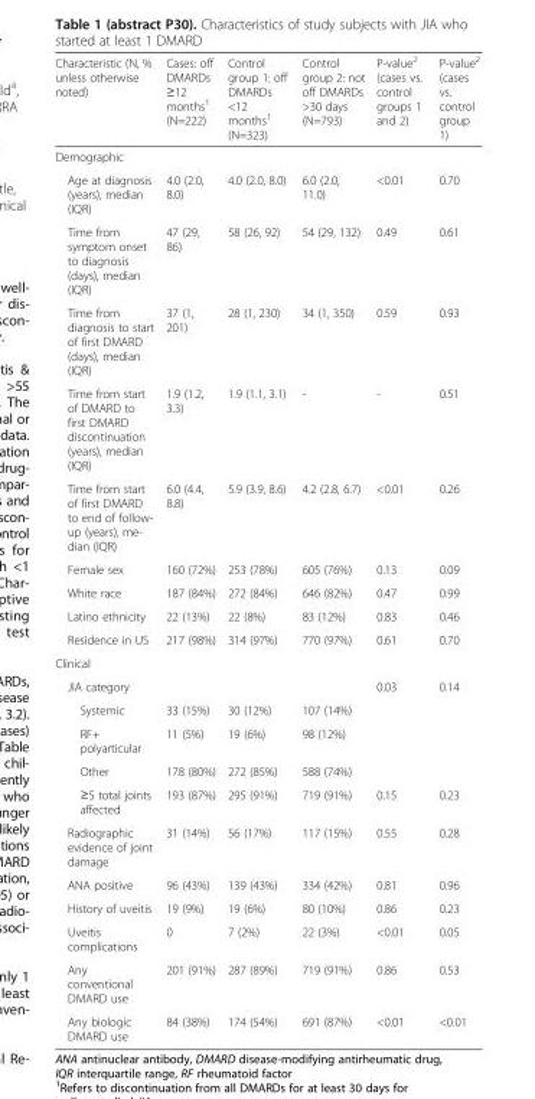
<table><thead><tr><td>Characteristic (N, % unless otherwise noted)</td><td>Cases: off DMARDs ≥12 months<sup>1</sup> (N=222)</td><td>Control group 1: off DMARDs &lt;12 months<sup>1</sup> (N=323)</td><td>Control group 2: not off DMARDs &gt;30 days (N=793)</td><td>P-value<sup>2</sup> (cases vs. control groups 1 and 2)</td><td>P-value<sup>2</sup> (cases vs. control group 1)</td></tr></thead><tbody><tr><td colspan="6">Demographic</td></tr><tr><td>Age at diagnosis (years), median (IQR)</td><td>4.0 (2.0, 8.0)</td><td>4.0 (2.0, 8.0)</td><td>6.0 (2.0, 11.0)</td><td>&lt;0.01</td><td>0.70</td></tr><tr><td>Time from symptom onset to diagnosis (days), median (IQR)</td><td>47 (29, 86)</td><td>58 (26, 92)</td><td>54 (29, 132)</td><td>0.49</td><td>0.61</td></tr><tr><td>Time from diagnosis to start of first DMARD (days), median (IQR)</td><td>37 (1, 201)</td><td>28 (1, 230)</td><td>34 (1, 350)</td><td>0.59</td><td>0.93</td></tr><tr><td>Time from start of DMARD to first DMARD discontinuation (years), median (IQR)</td><td>1.9 (1.2, 3.3)</td><td>1.9 (1.1, 3.1)</td><td>-</td><td>-</td><td>0.51</td></tr><tr><td>Time from start of first DMARD to end of follow- up (years), me- dian (IQR)</td><td>6.0 (4.4, 8.8)</td><td>5.9 (3.9, 8.6)</td><td>4.2 (2.8, 6.7)</td><td>&lt;0.01</td><td>0.26</td></tr><tr><td>Female sex</td><td>160 (72%)</td><td>253 (78%)</td><td>605 (76%)</td><td>0.13</td><td>0.09</td></tr><tr><td>White race</td><td>187 (84%)</td><td>272 (84%)</td><td>646 (82%)</td><td>0.47</td><td>0.99</td></tr><tr><td>Latino ethnicity</td><td>22 (13%)</td><td>22 (8%)</td><td>83 (12%)</td><td>0.83</td><td>0.46</td></tr><tr><td>Residence in US</td><td>217 (98%)</td><td>314 (97%)</td><td>770 (97%)</td><td>0.61</td><td>0.70</td></tr><tr><td colspan="6">Clinical</td></tr><tr><td>JIA category</td><td></td><td></td><td></td><td>0.03</td><td>0.14</td></tr><tr><td>Systemic</td><td>33 (15%)</td><td>30 (12%)</td><td>107 (14%)</td><td></td><td></td></tr><tr><td>RF+ polyarticular</td><td>11 (5%)</td><td>19 (6%)</td><td>98 (12%)</td><td></td><td></td></tr><tr><td>Other</td><td>178 (80%)</td><td>272 (85%)</td><td>588 (74%)</td><td></td><td></td></tr><tr><td>≥5 total joints affected</td><td>193 (87%)</td><td>295 (91%)</td><td>719 (91%)</td><td>0.15</td><td>0.23</td></tr><tr><td>Radiographic evidence of joint damage</td><td>31 (14%)</td><td>56 (17%)</td><td>117 (15%)</td><td>0.55</td><td>0.28</td></tr><tr><td>ANA positive</td><td>96 (43%)</td><td>139 (43%)</td><td>334 (42%)</td><td>0.81</td><td>0.96</td></tr><tr><td>History of uveitis</td><td>19 (9%)</td><td>19 (6%)</td><td>80 (10%)</td><td>0.86</td><td>0.23</td></tr><tr><td>Uveitis complications</td><td>0</td><td>7 (2%)</td><td>22 (3%)</td><td>&lt;0.01</td><td>0.05</td></tr><tr><td>Any conventional DMARD use</td><td>201 (91%)</td><td>287 (89%)</td><td>719 (91%)</td><td>0.86</td><td>0.53</td></tr><tr><td>Any biologic DMARD use</td><td>84 (38%)</td><td>174 (54%)</td><td>691 (87%)</td><td>&lt;0.01</td><td>&lt;0.01</td></tr></tbody></table>